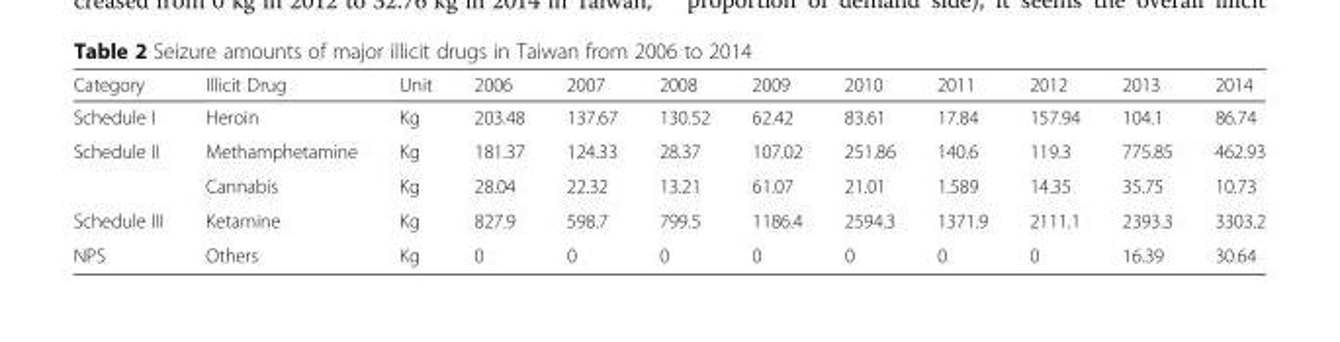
<table><thead><tr><td>Category</td><td>Illicit Drug</td><td>Unit</td><td>2006</td><td>2007</td><td>2008</td><td>2009</td><td>2010</td><td>2011</td><td>2012</td><td>2013</td><td>2014</td></tr></thead><tbody><tr><td>Schedule I</td><td>Heroin</td><td>Kg</td><td>203.48</td><td>137.67</td><td>130.52</td><td>62.42</td><td>83.61</td><td>17.84</td><td>157.94</td><td>104.1</td><td>86.74</td></tr><tr><td rowspan="2">Schedule II</td><td>Methamphetamine</td><td>Kg</td><td>181.37</td><td>124.33</td><td>28.37</td><td>107.02</td><td>251.86</td><td>140.6</td><td>119.3</td><td>775.85</td><td>462.93</td></tr><tr><td>Cannabis</td><td>Kg</td><td>28.04</td><td>22.32</td><td>13.21</td><td>61.07</td><td>21.01</td><td>1.589</td><td>14.35</td><td>35.75</td><td>10.73</td></tr><tr><td>Schedule III</td><td>Ketamine</td><td>Kg</td><td>827.9</td><td>598.7</td><td>799.5</td><td>1186.4</td><td>2594.3</td><td>1371.9</td><td>2111.1</td><td>2393.3</td><td>3303.2</td></tr><tr><td>NPS</td><td>Others</td><td>Kg</td><td>0</td><td>0</td><td>0</td><td>0</td><td>0</td><td>0</td><td>0</td><td>16.39</td><td>30.64</td></tr></tbody></table>